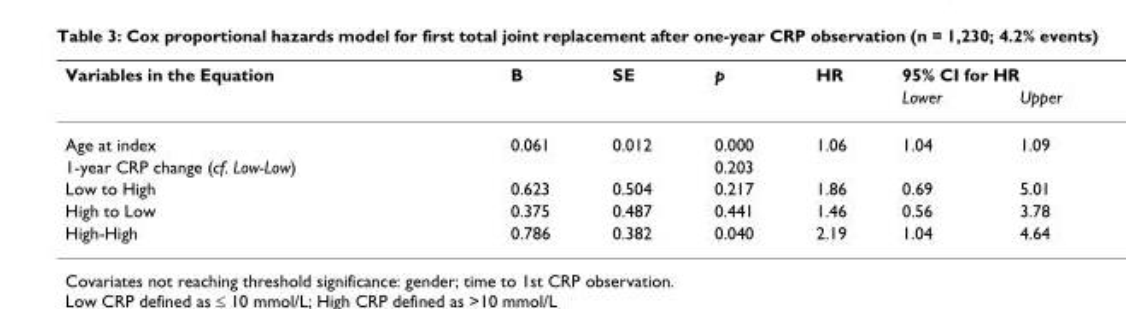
<table><thead><tr><td rowspan="2">Variables in the Equation</td><td rowspan="2">B</td><td rowspan="2">SE</td><td rowspan="2">p</td><td rowspan="2">HR</td><td colspan="2">95% CI for HR</td></tr><tr><td>Lower</td><td>Upper</td></tr></thead><tbody><tr><td>Age at index</td><td>0.061</td><td>0.012</td><td>0.000</td><td>1.06</td><td>1.04</td><td>1.09</td></tr><tr><td>1-year CRP change (cf. Low-Low)</td><td></td><td></td><td>0.203</td><td></td><td></td><td></td></tr><tr><td>Low to High</td><td>0.623</td><td>0.504</td><td>0.217</td><td>1.86</td><td>0.69</td><td>5.01</td></tr><tr><td>High to Low</td><td>0.375</td><td>0.487</td><td>0.441</td><td>1.46</td><td>0.56</td><td>3.78</td></tr><tr><td>High-High</td><td>0.786</td><td>0.382</td><td>0.040</td><td>2.19</td><td>1.04</td><td>4.64</td></tr></tbody></table>